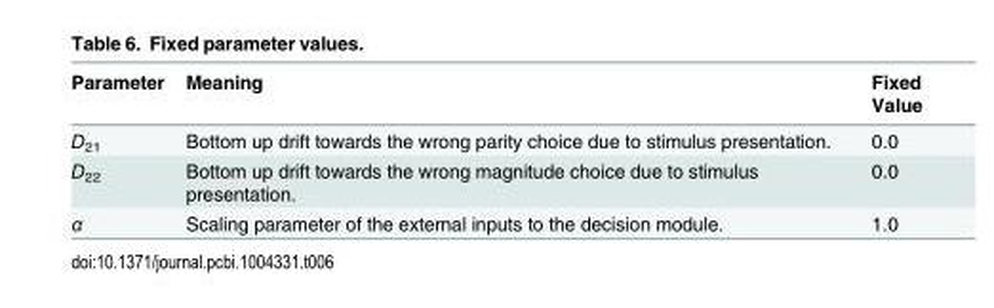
<table><thead><tr><td>Parameter</td><td>Meaning</td><td>Fixed Value</td></tr></thead><tbody><tr><td>D<sub>21</sub></td><td>Bottom up drift towards the wrong parity choice due to stimulus presentation.</td><td>0.0</td></tr><tr><td>D<sub>22</sub></td><td>Bottom up drift towards the wrong magnitude choice due to stimulus presentation.</td><td>0.0</td></tr><tr><td>α</td><td>Scaling parameter of the external inputs to the decision module.</td><td>1.0</td></tr></tbody></table>